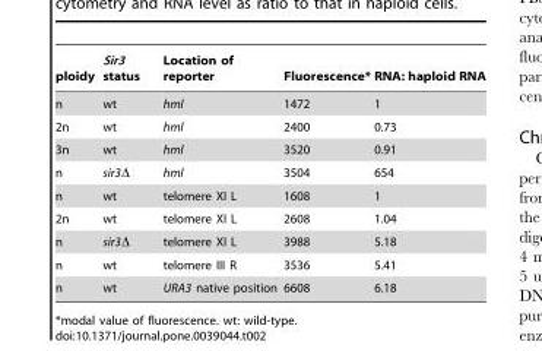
<table><thead><tr><td>ploidy</td><td>Sir3 status</td><td>Location of reporter</td><td>Fluorescence*</td><td>RNA: haploid RNA</td></tr></thead><tbody><tr><td>n</td><td>wt</td><td>hml</td><td>1472</td><td>1</td></tr><tr><td>2n</td><td>wt</td><td>hml</td><td>2400</td><td>0.73</td></tr><tr><td>3n</td><td>wt</td><td>hml</td><td>3520</td><td>0.91</td></tr><tr><td>n</td><td>sir3Δ</td><td>hml</td><td>3504</td><td>654</td></tr><tr><td>n</td><td>wt</td><td>telomere XI L</td><td>1608</td><td>1</td></tr><tr><td>2n</td><td>wt</td><td>telomere XI L</td><td>2608</td><td>1.04</td></tr><tr><td>n</td><td>sir3Δ</td><td>telomere XI L</td><td>3988</td><td>5.18</td></tr><tr><td>n</td><td>wt</td><td>telomere III R</td><td>3536</td><td>5.41</td></tr><tr><td>n</td><td>wt</td><td>URA3 native position</td><td>6608</td><td>6.18</td></tr></tbody></table>